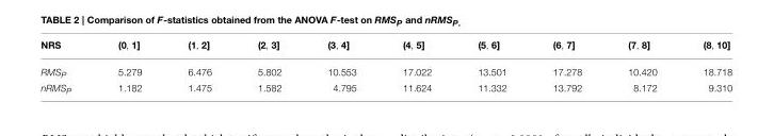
<table><thead><tr><td>NRS</td><td>(0, 1]</td><td>(1, 2]</td><td>(2, 3]</td><td>(3, 4]</td><td>(4, 5]</td><td>(5, 6]</td><td>(6, 7]</td><td>(7, 8]</td><td>(8, 10]</td></tr></thead><tbody><tr><td>RMSP</td><td>5.279</td><td>6.476</td><td>5.802</td><td>10.553</td><td>17.022</td><td>13.501</td><td>17.278</td><td>10.420</td><td>18.718</td></tr><tr><td>nRMSP</td><td>1.182</td><td>1.475</td><td>1.582</td><td>4.795</td><td>11.624</td><td>11.332</td><td>13.792</td><td>8.172</td><td>9.310</td></tr></tbody></table>